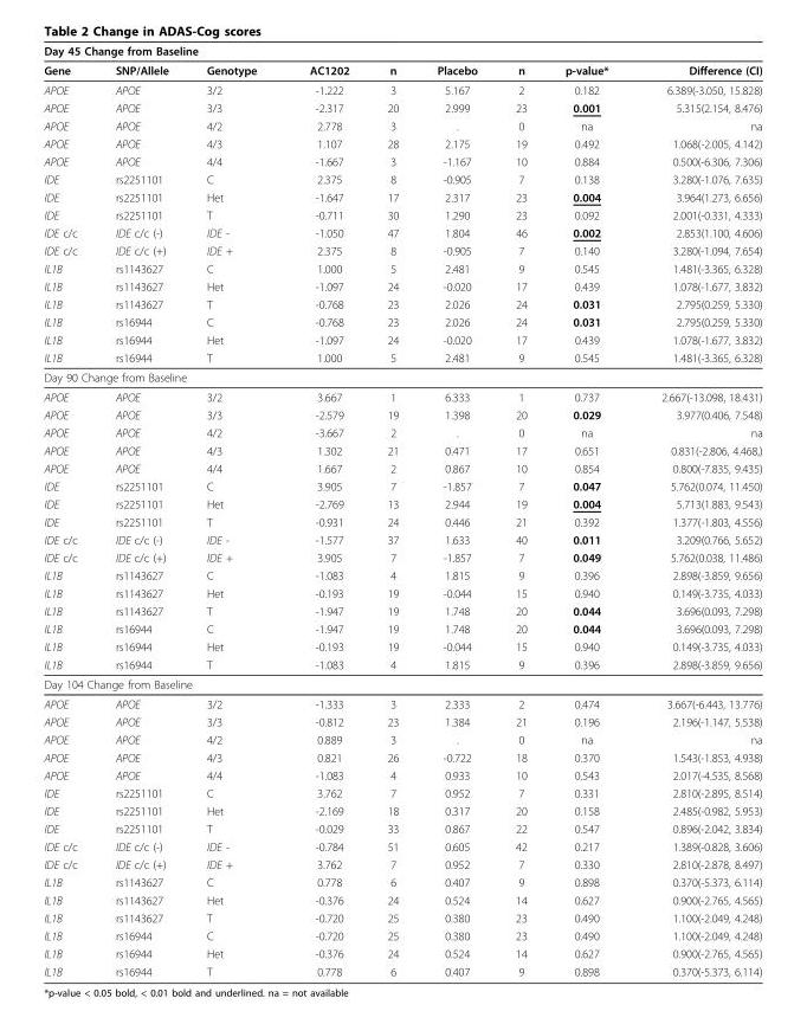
<table><thead><tr><td colspan="3">Day 45 Change from Baseline</td><td rowspan="2">AC1202</td><td rowspan="2">n</td><td rowspan="2">Placebo</td><td rowspan="2">n</td><td rowspan="2">p-value*</td><td rowspan="2">Difference (CI)</td></tr><tr><td>Gene</td><td>SNP/Allele</td><td>Genotype</td></tr></thead><tbody><tr><td>APOE</td><td>APOE</td><td>3/2</td><td>-1.222</td><td>3</td><td>5.167</td><td>2</td><td>0.182</td><td>6.389(-3.050, 15.828)</td></tr><tr><td>APOE</td><td>APOE</td><td>3/3</td><td>-2.317</td><td>20</td><td>2.999</td><td>23</td><td>0.001</td><td>5.315(2.154, 8.476)</td></tr><tr><td>APOE</td><td>APOE</td><td>4/2</td><td>2.778</td><td>3</td><td>.</td><td>0</td><td>na</td><td>na</td></tr><tr><td>APOE</td><td>APOE</td><td>4/3</td><td>1.107</td><td>28</td><td>2.175</td><td>19</td><td>0.492</td><td>1.068(-2.005, 4.142)</td></tr><tr><td>APOE</td><td>APOE</td><td>4/4</td><td>-1.667</td><td>3</td><td>-1.167</td><td>10</td><td>0.884</td><td>0.500(-6.306, 7.306)</td></tr><tr><td>IDE</td><td>rs2251101</td><td>C</td><td>2.375</td><td>8</td><td>-0.905</td><td>7</td><td>0.138</td><td>3.280(-1.076, 7.635)</td></tr><tr><td>IDE</td><td>rs2251101</td><td>Het</td><td>-1.647</td><td>17</td><td>2.317</td><td>23</td><td>0.004</td><td>3.964(1.273, 6.656)</td></tr><tr><td>IDE</td><td>rs2251101</td><td>T</td><td>-0.711</td><td>30</td><td>1.290</td><td>23</td><td>0.092</td><td>2.001(-0.331, 4.333)</td></tr><tr><td>IDE c/c</td><td>IDE c/c (-)</td><td>IDE -</td><td>-1.050</td><td>47</td><td>1.804</td><td>46</td><td>0.002</td><td>2.853(1.100, 4.606)</td></tr><tr><td>IDE c/c</td><td>IDE c/c (+)</td><td>IDE +</td><td>2.375</td><td>8</td><td>-0.905</td><td>7</td><td>0.140</td><td>3.280(-1.094, 7.654)</td></tr><tr><td>IL1B</td><td>rs1143627</td><td>C</td><td>1.000</td><td>5</td><td>2.481</td><td>9</td><td>0.545</td><td>1.481(-3.365, 6.328)</td></tr><tr><td>IL1B</td><td>rs1143627</td><td>Het</td><td>-1.097</td><td>24</td><td>-0.020</td><td>17</td><td>0.439</td><td>1.078(-1.677, 3.832)</td></tr><tr><td>IL1B</td><td>rs1143627</td><td>T</td><td>-0.768</td><td>23</td><td>2.026</td><td>24</td><td>0.031</td><td>2.795(0.259, 5.330)</td></tr><tr><td>IL1B</td><td>rs16944</td><td>C</td><td>-0.768</td><td>23</td><td>2.026</td><td>24</td><td>0.031</td><td>2.795(0.259, 5.330)</td></tr><tr><td>IL1B</td><td>rs16944</td><td>Het</td><td>-1.097</td><td>24</td><td>-0.020</td><td>17</td><td>0.439</td><td>1.078(-1.677, 3.832)</td></tr><tr><td>IL1B</td><td>rs16944</td><td>T</td><td>1.000</td><td>5</td><td>2.481</td><td>9</td><td>0.545</td><td>1.481(-3.365, 6.328)</td></tr><tr><td colspan="9">Day 90 Change from Baseline</td></tr><tr><td>APOE</td><td>APOE</td><td>3/2</td><td>3.667</td><td>1</td><td>6.333</td><td>1</td><td>0.737</td><td>2.667(-13.098, 18.431)</td></tr><tr><td>APOE</td><td>APOE</td><td>3/3</td><td>-2.579</td><td>19</td><td>1.398</td><td>20</td><td>0.029</td><td>3.977(0.406, 7.548)</td></tr><tr><td>APOE</td><td>APOE</td><td>4/2</td><td>-3.667</td><td>2</td><td>.</td><td>0</td><td>na</td><td>na</td></tr><tr><td>APOE</td><td>APOE</td><td>4/3</td><td>1.302</td><td>21</td><td>0.471</td><td>17</td><td>0.651</td><td>0.831(-2.806, 4.468,)</td></tr><tr><td>APOE</td><td>APOE</td><td>4/4</td><td>1.667</td><td>2</td><td>0.867</td><td>10</td><td>0.854</td><td>0.800(-7.835, 9.435)</td></tr><tr><td>IDE</td><td>rs2251101</td><td>C</td><td>3.905</td><td>7</td><td>-1.857</td><td>7</td><td>0.047</td><td>5.762(0.074, 11.450)</td></tr><tr><td>IDE</td><td>rs2251101</td><td>Het</td><td>-2.769</td><td>13</td><td>2.944</td><td>19</td><td>0.004</td><td>5.713(1.883, 9.543)</td></tr><tr><td>IDE</td><td>rs2251101</td><td>T</td><td>-0.931</td><td>24</td><td>0.446</td><td>21</td><td>0.392</td><td>1.377(-1.803, 4.556)</td></tr><tr><td>IDE c/c</td><td>IDE c/c (-)</td><td>IDE -</td><td>-1.577</td><td>37</td><td>1.633</td><td>40</td><td>0.011</td><td>3.209(0.766, 5.652)</td></tr><tr><td>IDE c/c</td><td>IDE c/c (+)</td><td>IDE +</td><td>3.905</td><td>7</td><td>-1.857</td><td>7</td><td>0.049</td><td>5.762(0.038, 11.486)</td></tr><tr><td>IL1B</td><td>rs1143627</td><td>C</td><td>-1.083</td><td>4</td><td>1.815</td><td>9</td><td>0.396</td><td>2.898(-3.859, 9.656)</td></tr><tr><td>IL1B</td><td>rs1143627</td><td>Het</td><td>-0.193</td><td>19</td><td>-0.044</td><td>15</td><td>0.940</td><td>0.149(-3.735, 4.033)</td></tr><tr><td>IL1B</td><td>rs1143627</td><td>T</td><td>-1.947</td><td>19</td><td>1.748</td><td>20</td><td>0.044</td><td>3.696(0.093, 7.298)</td></tr><tr><td>IL1B</td><td>rs16944</td><td>C</td><td>-1.947</td><td>19</td><td>1.748</td><td>20</td><td>0.044</td><td>3.696(0.093, 7.298)</td></tr><tr><td>IL1B</td><td>rs16944</td><td>Het</td><td>-0.193</td><td>19</td><td>-0.044</td><td>15</td><td>0.940</td><td>0.149(-3.735, 4.033)</td></tr><tr><td>IL1B</td><td>rs16944</td><td>T</td><td>-1.083</td><td>4</td><td>1.815</td><td>9</td><td>0.396</td><td>2.898(-3.859, 9.656)</td></tr><tr><td colspan="9">Day 104 Change from Baseline</td></tr><tr><td>APOE</td><td>APOE</td><td>3/2</td><td>-1.333</td><td>3</td><td>2.333</td><td>2</td><td>0.474</td><td>3.667(-6.443, 13.776)</td></tr><tr><td>APOE</td><td>APOE</td><td>3/3</td><td>-0.812</td><td>23</td><td>1.384</td><td>21</td><td>0.196</td><td>2.196(-1.147, 5.538)</td></tr><tr><td>APOE</td><td>APOE</td><td>4/2</td><td>0.889</td><td>3</td><td>.</td><td>0</td><td>na</td><td>na</td></tr><tr><td>APOE</td><td>APOE</td><td>4/3</td><td>0.821</td><td>26</td><td>-0.722</td><td>18</td><td>0.370</td><td>1.543(-1.853, 4.938)</td></tr><tr><td>APOE</td><td>APOE</td><td>4/4</td><td>-1.083</td><td>4</td><td>0.933</td><td>10</td><td>0.543</td><td>2.017(-4.535, 8.568)</td></tr><tr><td>IDE</td><td>rs2251101</td><td>C</td><td>3.762</td><td>7</td><td>0.952</td><td>7</td><td>0.331</td><td>2.810(-2.895, 8.514)</td></tr><tr><td>IDE</td><td>rs2251101</td><td>Het</td><td>-2.169</td><td>18</td><td>0.317</td><td>20</td><td>0.158</td><td>2.485(-0.982, 5.953)</td></tr><tr><td>IDE</td><td>rs2251101</td><td>T</td><td>-0.029</td><td>33</td><td>0.867</td><td>22</td><td>0.547</td><td>0.896(-2.042, 3.834)</td></tr><tr><td>IDE c/c</td><td>IDE c/c (-)</td><td>IDE -</td><td>-0.784</td><td>51</td><td>0.605</td><td>42</td><td>0.217</td><td>1.389(-0.828, 3.606)</td></tr><tr><td>IDE c/c</td><td>IDE c/c (+)</td><td>IDE +</td><td>3.762</td><td>7</td><td>0.952</td><td>7</td><td>0.330</td><td>2.810(-2.878, 8.497)</td></tr><tr><td>IL1B</td><td>rs1143627</td><td>C</td><td>0.778</td><td>6</td><td>0.407</td><td>9</td><td>0.898</td><td>0.370(-5.373, 6.114)</td></tr><tr><td>IL1B</td><td>rs1143627</td><td>Het</td><td>-0.376</td><td>24</td><td>0.524</td><td>14</td><td>0.627</td><td>0.900(-2.765, 4.565)</td></tr><tr><td>IL1B</td><td>rs1143627</td><td>T</td><td>-0.720</td><td>25</td><td>0.380</td><td>23</td><td>0.490</td><td>1.100(-2.049, 4.248)</td></tr><tr><td>IL1B</td><td>rs16944</td><td>C</td><td>-0.720</td><td>25</td><td>0.380</td><td>23</td><td>0.490</td><td>1.100(-2.049, 4.248)</td></tr><tr><td>IL1B</td><td>rs16944</td><td>Het</td><td>-0.376</td><td>24</td><td>0.524</td><td>14</td><td>0.627</td><td>0.900(-2.765, 4.565)</td></tr><tr><td>IL1B</td><td>rs16944</td><td>T</td><td>0.778</td><td>6</td><td>0.407</td><td>9</td><td>0.898</td><td>0.370(-5.373, 6.114)</td></tr></tbody></table>